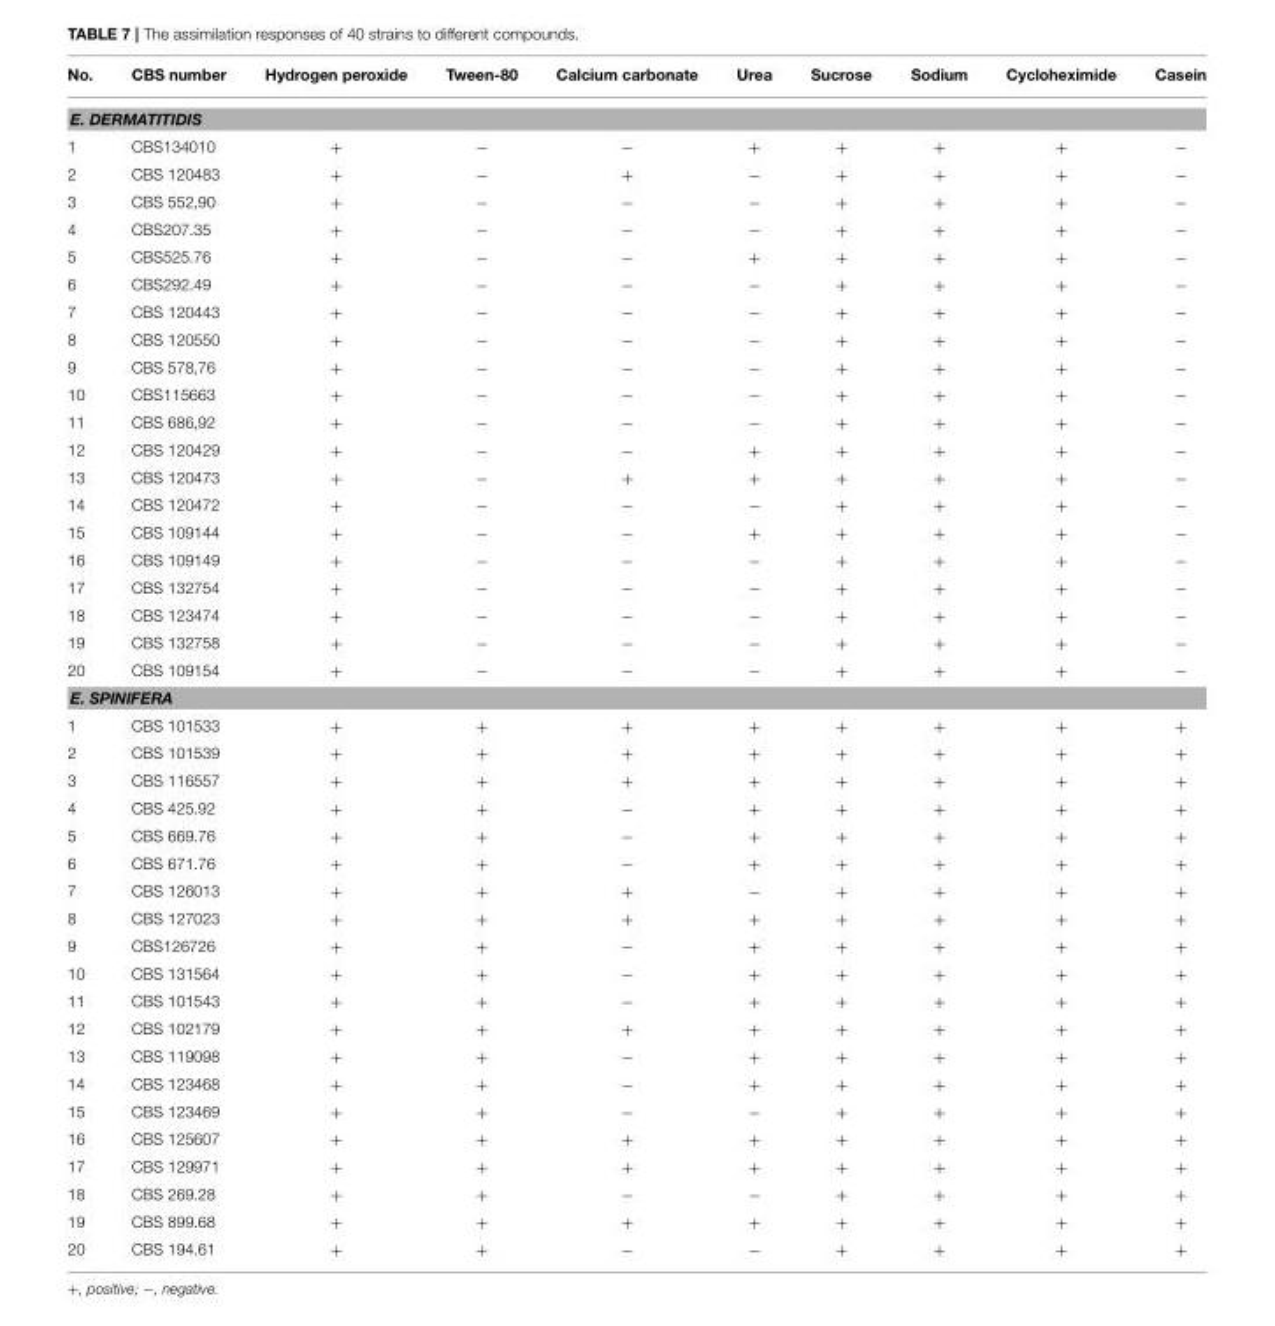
<table><thead><tr><td>No.</td><td>CBS number</td><td>Hydrogen peroxide</td><td>Tween-80</td><td>Calcium carbonate</td><td>Urea</td><td>Sucrose</td><td>Sodium</td><td>Cycloheximide</td><td>Casein</td></tr></thead><tbody><tr><td colspan="10">E. DERMATITIDIS</td></tr><tr><td>1</td><td>CBS134010</td><td>+</td><td>−</td><td>−</td><td>+</td><td>+</td><td>+</td><td>+</td><td>−</td></tr><tr><td>2</td><td>CBS 120483</td><td>+</td><td>−</td><td>+</td><td>−</td><td>+</td><td>+</td><td>+</td><td>−</td></tr><tr><td>3</td><td>CBS 552,90</td><td>+</td><td>−</td><td>−</td><td>−</td><td>+</td><td>+</td><td>+</td><td>−</td></tr><tr><td>4</td><td>CBS207.35</td><td>+</td><td>−</td><td>−</td><td>−</td><td>+</td><td>+</td><td>+</td><td>−</td></tr><tr><td>5</td><td>CBS525.76</td><td>+</td><td>−</td><td>−</td><td>+</td><td>+</td><td>+</td><td>+</td><td>−</td></tr><tr><td>6</td><td>CBS292.49</td><td>+</td><td>−</td><td>−</td><td>−</td><td>+</td><td>+</td><td>+</td><td>−</td></tr><tr><td>7</td><td>CBS 120443</td><td>+</td><td>−</td><td>−</td><td>−</td><td>+</td><td>+</td><td>+</td><td>−</td></tr><tr><td>8</td><td>CBS 120550</td><td>+</td><td>−</td><td>−</td><td>−</td><td>+</td><td>+</td><td>+</td><td>−</td></tr><tr><td>9</td><td>CBS 578,76</td><td>+</td><td>−</td><td>−</td><td>−</td><td>+</td><td>+</td><td>+</td><td>−</td></tr><tr><td>10</td><td>CBS115663</td><td>+</td><td>−</td><td>−</td><td>−</td><td>+</td><td>+</td><td>+</td><td>−</td></tr><tr><td>11</td><td>CBS 686,92</td><td>+</td><td>−</td><td>−</td><td>−</td><td>+</td><td>+</td><td>+</td><td>−</td></tr><tr><td>12</td><td>CBS 120429</td><td>+</td><td>−</td><td>−</td><td>+</td><td>+</td><td>+</td><td>+</td><td>−</td></tr><tr><td>13</td><td>CBS 120473</td><td>+</td><td>−</td><td>+</td><td>+</td><td>+</td><td>+</td><td>+</td><td>−</td></tr><tr><td>14</td><td>CBS 120472</td><td>+</td><td>−</td><td>−</td><td>−</td><td>+</td><td>+</td><td>+</td><td>−</td></tr><tr><td>15</td><td>CBS 109144</td><td>+</td><td>−</td><td>−</td><td>+</td><td>+</td><td>+</td><td>+</td><td>−</td></tr><tr><td>16</td><td>CBS 109149</td><td>+</td><td>−</td><td>−</td><td>−</td><td>+</td><td>+</td><td>+</td><td>−</td></tr><tr><td>17</td><td>CBS 132754</td><td>+</td><td>−</td><td>−</td><td>−</td><td>+</td><td>+</td><td>+</td><td>−</td></tr><tr><td>18</td><td>CBS 123474</td><td>+</td><td>−</td><td>−</td><td>−</td><td>+</td><td>+</td><td>+</td><td>−</td></tr><tr><td>19</td><td>CBS 132758</td><td>+</td><td>−</td><td>−</td><td>−</td><td>+</td><td>+</td><td>+</td><td>−</td></tr><tr><td>20</td><td>CBS 109154</td><td>+</td><td>−</td><td>−</td><td>−</td><td>+</td><td>+</td><td>+</td><td>−</td></tr><tr><td colspan="10">E. SPINIFERA</td></tr><tr><td>1</td><td>CBS 101533</td><td>+</td><td>+</td><td>+</td><td>+</td><td>+</td><td>+</td><td>+</td><td>+</td></tr><tr><td>2</td><td>CBS 101539</td><td>+</td><td>+</td><td>+</td><td>+</td><td>+</td><td>+</td><td>+</td><td>+</td></tr><tr><td>3</td><td>CBS 116557</td><td>+</td><td>+</td><td>+</td><td>+</td><td>+</td><td>+</td><td>+</td><td>+</td></tr><tr><td>4</td><td>CBS 425.92</td><td>+</td><td>+</td><td>−</td><td>+</td><td>+</td><td>+</td><td>+</td><td>+</td></tr><tr><td>5</td><td>CBS 669.76</td><td>+</td><td>+</td><td>−</td><td>+</td><td>+</td><td>+</td><td>+</td><td>+</td></tr><tr><td>6</td><td>CBS 671.76</td><td>+</td><td>+</td><td>−</td><td>+</td><td>+</td><td>+</td><td>+</td><td>+</td></tr><tr><td>7</td><td>CBS 126013</td><td>+</td><td>+</td><td>+</td><td>−</td><td>+</td><td>+</td><td>+</td><td>+</td></tr><tr><td>8</td><td>CBS 127023</td><td>+</td><td>+</td><td>+</td><td>+</td><td>+</td><td>+</td><td>+</td><td>+</td></tr><tr><td>9</td><td>CBS126726</td><td>+</td><td>+</td><td>−</td><td>+</td><td>+</td><td>+</td><td>+</td><td>+</td></tr><tr><td>10</td><td>CBS 131564</td><td>+</td><td>+</td><td>−</td><td>+</td><td>+</td><td>+</td><td>+</td><td>+</td></tr><tr><td>11</td><td>CBS 101543</td><td>+</td><td>+</td><td>−</td><td>+</td><td>+</td><td>+</td><td>+</td><td>+</td></tr><tr><td>12</td><td>CBS 102179</td><td>+</td><td>+</td><td>+</td><td>+</td><td>+</td><td>+</td><td>+</td><td>+</td></tr><tr><td>13</td><td>CBS 119098</td><td>+</td><td>+</td><td>−</td><td>+</td><td>+</td><td>+</td><td>+</td><td>+</td></tr><tr><td>14</td><td>CBS 123468</td><td>+</td><td>+</td><td>−</td><td>+</td><td>+</td><td>+</td><td>+</td><td>+</td></tr><tr><td>15</td><td>CBS 123469</td><td>+</td><td>+</td><td>−</td><td>−</td><td>+</td><td>+</td><td>+</td><td>+</td></tr><tr><td>16</td><td>CBS 125607</td><td>+</td><td>+</td><td>+</td><td>+</td><td>+</td><td>+</td><td>+</td><td>+</td></tr><tr><td>17</td><td>CBS 129971</td><td>+</td><td>+</td><td>+</td><td>+</td><td>+</td><td>+</td><td>+</td><td>+</td></tr><tr><td>18</td><td>CBS 269.28</td><td>+</td><td>+</td><td>−</td><td>−</td><td>+</td><td>+</td><td>+</td><td>+</td></tr><tr><td>19</td><td>CBS 899.68</td><td>+</td><td>+</td><td>+</td><td>+</td><td>+</td><td>+</td><td>+</td><td>+</td></tr><tr><td>20</td><td>CBS 194.61</td><td>+</td><td>+</td><td>−</td><td>−</td><td>+</td><td>+</td><td>+</td><td>+</td></tr></tbody></table>